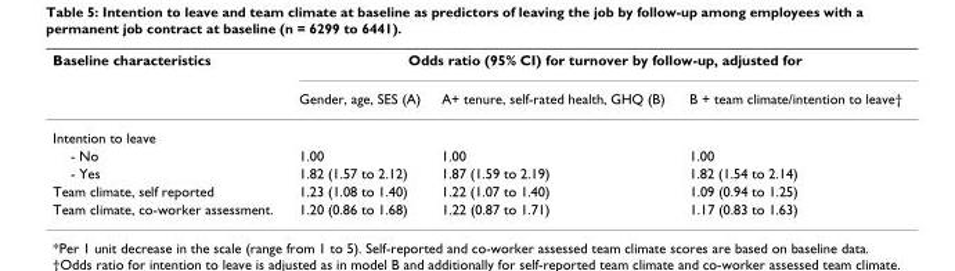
<table><thead><tr><td rowspan="2">Baseline characteristics</td><td colspan="3">Odds ratio (95% CI) for turnover by follow-up, adjusted for</td></tr><tr><td>Gender, age, SES (A)</td><td>A+ tenure, self-rated health, GHQ (B)</td><td>B + team climate/intention to leave†</td></tr></thead><tbody><tr><td colspan="4">Intention to leave</td></tr><tr><td>- No</td><td>1.00</td><td>1.00</td><td>1.00</td></tr><tr><td>- Yes</td><td>1.82 (1.57 to 2.12)</td><td>1.87 (1.59 to 2.19)</td><td>1.82 (1.54 to 2.14)</td></tr><tr><td>Team climate, self reported</td><td>1.23 (1.08 to 1.40)</td><td>1.22 (1.07 to 1.40)</td><td>1.09 (0.94 to 1.25)</td></tr><tr><td>Team climate, co-worker assessment.</td><td>1.20 (0.86 to 1.68)</td><td>1.22 (0.87 to 1.71)</td><td>1.17 (0.83 to 1.63)</td></tr></tbody></table>